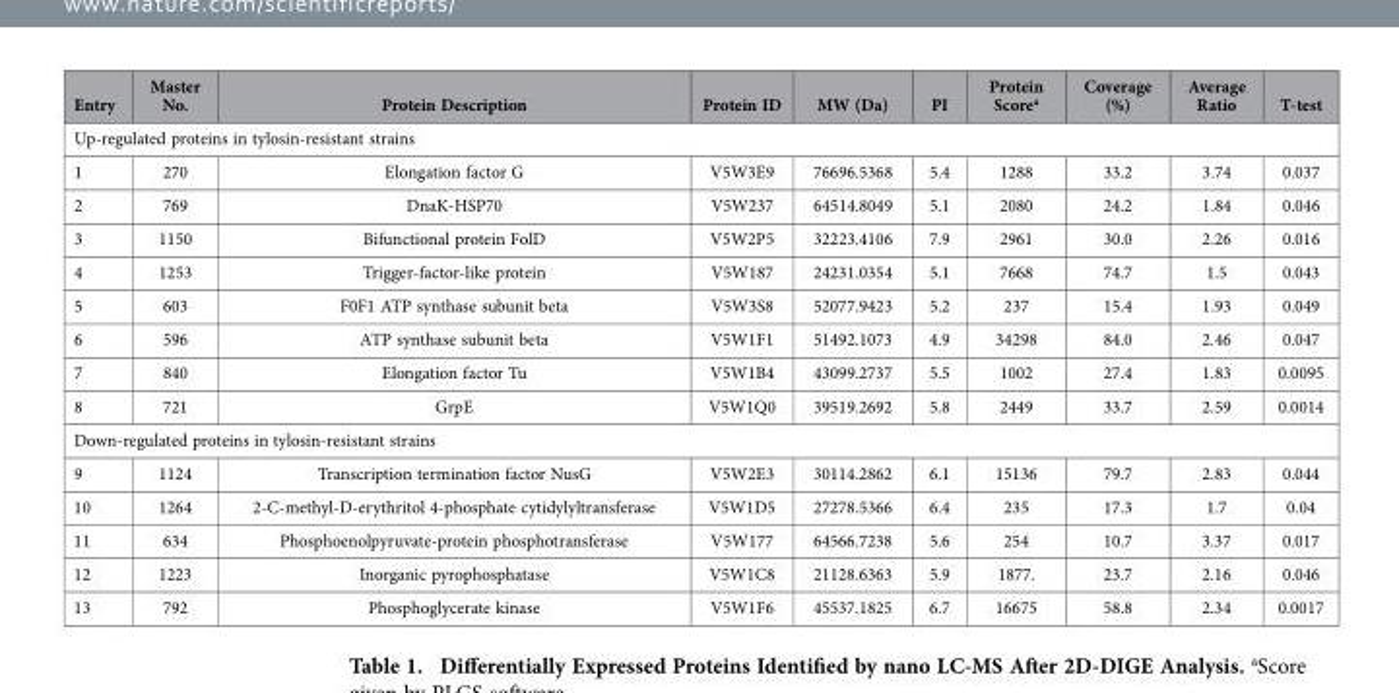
<table><thead><tr><td>Entry</td><td>Master No.</td><td>Protein Description</td><td>Protein ID</td><td>MW (Da)</td><td>PI</td><td>Protein Score<sup>a</sup></td><td>Coverage (%)</td><td>Average Ratio</td><td>T-test</td></tr></thead><tbody><tr><td colspan="10">Up-regulated proteins in tylosin-resistant strains</td></tr><tr><td>1</td><td>270</td><td>Elongation factor G</td><td>V5W3E9</td><td>76696.5368</td><td>5.4</td><td>1288</td><td>33.2</td><td>3.74</td><td>0.037</td></tr><tr><td>2</td><td>769</td><td>DnaK-HSP70</td><td>V5W237</td><td>64514.8049</td><td>5.1</td><td>2080</td><td>24.2</td><td>1.84</td><td>0.046</td></tr><tr><td>3</td><td>1150</td><td>Bifunctional protein FolD</td><td>V5W2P5</td><td>32223.4106</td><td>7.9</td><td>2961</td><td>30.0</td><td>2.26</td><td>0.016</td></tr><tr><td>4</td><td>1253</td><td>Trigger-factor-like protein</td><td>V5W187</td><td>24231.0354</td><td>5.1</td><td>7668</td><td>74.7</td><td>1.5</td><td>0.043</td></tr><tr><td>5</td><td>603</td><td>F0F1 ATP synthase subunit beta</td><td>V5W3S8</td><td>52077.9423</td><td>5.2</td><td>237</td><td>15.4</td><td>1.93</td><td>0.049</td></tr><tr><td>6</td><td>596</td><td>ATP synthase subunit beta</td><td>V5W1F1</td><td>51492.1073</td><td>4.9</td><td>34298</td><td>84.0</td><td>2.46</td><td>0.047</td></tr><tr><td>7</td><td>840</td><td>Elongation factor Tu</td><td>V5W1B4</td><td>43099.2737</td><td>5.5</td><td>1002</td><td>27.4</td><td>1.83</td><td>0.0095</td></tr><tr><td>8</td><td>721</td><td>GrpE</td><td>V5W1Q0</td><td>39519.2692</td><td>5.8</td><td>2449</td><td>33.7</td><td>2.59</td><td>0.0014</td></tr><tr><td colspan="10">Down-regulated proteins in tylosin-resistant strains</td></tr><tr><td>9</td><td>1124</td><td>Transcription termination factor NusG</td><td>V5W2E3</td><td>30114.2862</td><td>6.1</td><td>15136</td><td>79.7</td><td>2.83</td><td>0.044</td></tr><tr><td>10</td><td>1264</td><td>2-C-methyl-D-erythritol 4-phosphate cytidylyltransferase</td><td>V5W1D5</td><td>27278.5366</td><td>6.4</td><td>235</td><td>17.3</td><td>1.7</td><td>0.04</td></tr><tr><td>11</td><td>634</td><td>Phosphoenolpyruvate-protein phosphotransferase</td><td>V5W177</td><td>64566.7238</td><td>5.6</td><td>254</td><td>10.7</td><td>3.37</td><td>0.017</td></tr><tr><td>12</td><td>1223</td><td>Inorganic pyrophosphatase</td><td>V5W1C8</td><td>21128.6363</td><td>5.9</td><td>1877.</td><td>23.7</td><td>2.16</td><td>0.046</td></tr><tr><td>13</td><td>792</td><td>Phosphoglycerate kinase</td><td>V5W1F6</td><td>45537.1825</td><td>6.7</td><td>16675</td><td>58.8</td><td>2.34</td><td>0.0017</td></tr></tbody></table>